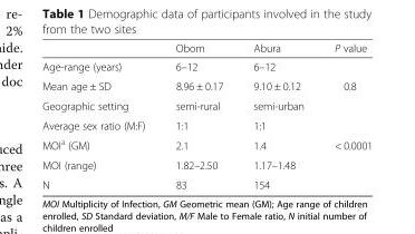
<table><thead><tr><td></td><td>Obom</td><td>Abura</td><td>P value</td></tr></thead><tbody><tr><td>Age-range (years)</td><td>6–12</td><td>6–12</td><td></td></tr><tr><td>Mean age ± SD</td><td>8.96 ± 0.17</td><td>9.10 ± 0.12</td><td>0.8</td></tr><tr><td>Geographic setting</td><td>semi-rural</td><td>semi-urban</td><td></td></tr><tr><td>Average sex ratio (M:F)</td><td>1:1</td><td>1:1</td><td></td></tr><tr><td>MOI<sup>a</sup> (GM)</td><td>2.1</td><td>1.4</td><td>&lt; 0.0001</td></tr><tr><td>MOI (range)</td><td>1.82–2.50</td><td>1.17–1.48</td><td></td></tr><tr><td>N</td><td>83</td><td>154</td><td></td></tr></tbody></table>